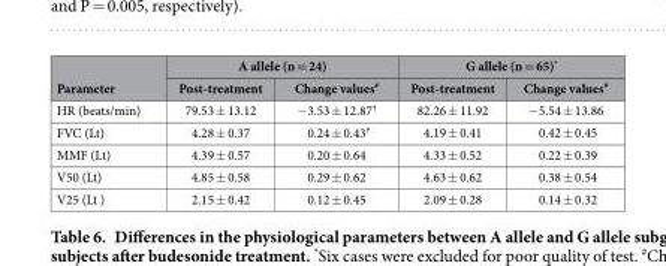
<table><thead><tr><td rowspan="2">Parameter</td><td colspan="2">A allele (n = 24)</td><td colspan="2">G allele (n = 65)*</td></tr><tr><td>Post-treatment</td><td>Change values#</td><td>Post-treatment</td><td>Change values#</td></tr></thead><tbody><tr><td>HR (beats/min)</td><td>79.53 ± 13.12</td><td>− 3.53 ± 12.87†</td><td>82.26 ± 11.92</td><td>− 5.54 ± 13.86</td></tr><tr><td>FVC (Lt)</td><td>4.28 ± 0.37</td><td>0.24 ± 0.43†</td><td>4.19 ± 0.41</td><td>0.42 ± 0.45</td></tr><tr><td>MMF (Lt)</td><td>4.39 ± 0.57</td><td>0.20 ± 0.64</td><td>4.33 ± 0.52</td><td>0.22 ± 0.39</td></tr><tr><td>V50 (Lt)</td><td>4.85 ± 0.58</td><td>0.29 ± 0.62</td><td>4.63 ± 0.62</td><td>0.38 ± 0.54</td></tr><tr><td>V25 (Lt )</td><td>2.15 ± 0.42</td><td>0.12 ± 0.45</td><td>2.09 ± 0.28</td><td>0.14 ± 0.32</td></tr></tbody></table>